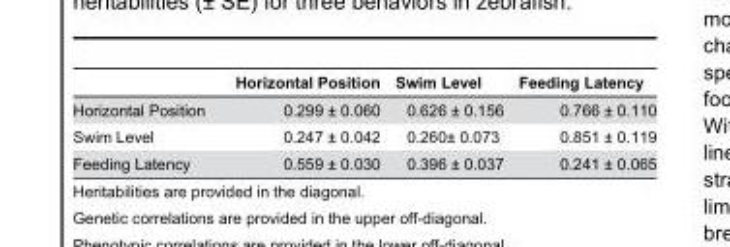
<table><thead><tr><td></td><td>Horizontal Position</td><td>Swim Level</td><td>Feeding Latency</td></tr></thead><tbody><tr><td>Horizontal Position</td><td>0.299 ± 0.060</td><td>0.626 ± 0.156</td><td>0.766 ± 0.110</td></tr><tr><td>Swim Level</td><td>0.247 ± 0.042</td><td>0.260± 0.073</td><td>0.851 ± 0.119</td></tr><tr><td>Feeding Latency</td><td>0.559 ± 0.030</td><td>0.396 ± 0.037</td><td>0.241 ± 0.065</td></tr></tbody></table>